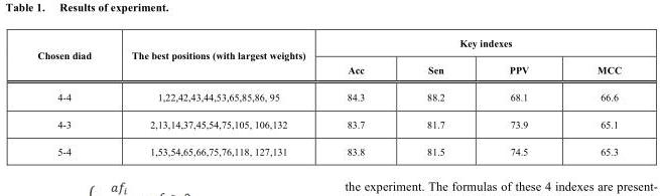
<table><thead><tr><td rowspan="2">Chosen diad</td><td rowspan="2">The best positions (with largest weights)</td><td colspan="4">Key indexes</td></tr><tr><td>Acc</td><td>Sen</td><td>PPV</td><td>MCC</td></tr></thead><tbody><tr><td>4-4</td><td>1,22,42,43,44,53,65,85,86, 95</td><td>84.3</td><td>88.2</td><td>68.1</td><td>66.6</td></tr><tr><td>4-3</td><td>2,13,14,37,45,54,75,105, 106,132</td><td>83.7</td><td>81.7</td><td>73.9</td><td>65.1</td></tr><tr><td>5-4</td><td>1,53,54,65,66,75,76,118, 127,131</td><td>83.8</td><td>81.5</td><td>74.5</td><td>65.3</td></tr></tbody></table>